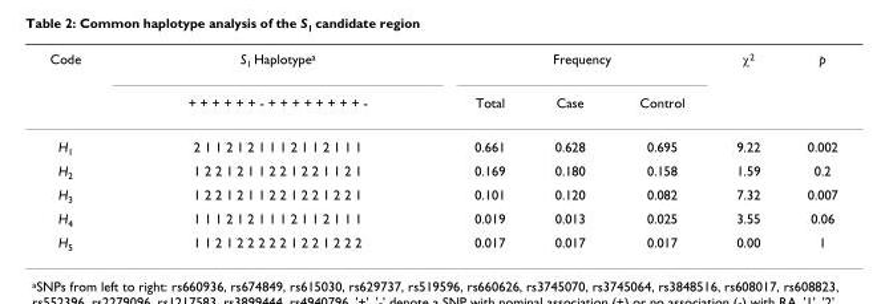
<table><thead><tr><td rowspan="2">Code</td><td rowspan="2">S<sub>1</sub> Haplotype<sup>a</sup> + + + + + + - + + + + + + + + -</td><td colspan="3">Frequency</td><td rowspan="2">χ<sup>2</sup></td><td rowspan="2">p</td></tr><tr><td>Total</td><td>Case</td><td>Control</td></tr></thead><tbody><tr><td>H<sub>1</sub></td><td>2 1 1 2 1 2 1 1 1 2 1 1 2 1 1 1</td><td>0.661</td><td>0.628</td><td>0.695</td><td>9.22</td><td>0.002</td></tr><tr><td>H<sub>2</sub></td><td>1 2 2 1 2 1 1 2 2 1 2 2 1 1 2 1</td><td>0.169</td><td>0.180</td><td>0.158</td><td>1.59</td><td>0.2</td></tr><tr><td>H<sub>3</sub></td><td>1 2 2 1 2 1 1 2 2 1 2 2 1 2 2 1</td><td>0.101</td><td>0.120</td><td>0.082</td><td>7.32</td><td>0.007</td></tr><tr><td>H<sub>4</sub></td><td>1 1 1 2 1 2 1 1 1 2 1 1 2 1 1 1</td><td>0.019</td><td>0.013</td><td>0.025</td><td>3.55</td><td>0.06</td></tr><tr><td>H<sub>5</sub></td><td>1 1 2 1 2 2 2 2 2 1 2 2 1 2 2 2</td><td>0.017</td><td>0.017</td><td>0.017</td><td>0.00</td><td>1</td></tr></tbody></table>